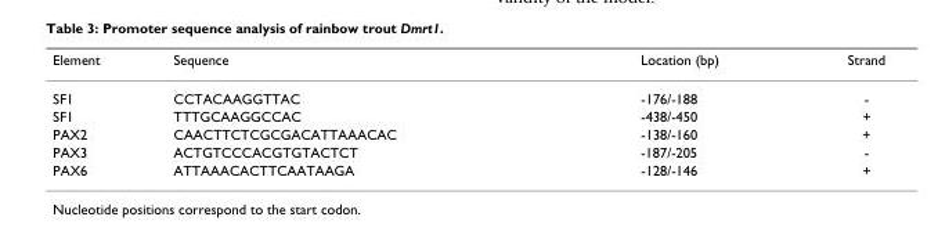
<table><thead><tr><td>Element</td><td>Sequence</td><td>Location (bp)</td><td>Strand</td></tr></thead><tbody><tr><td>SF1</td><td>CCTACAAGGTTAC</td><td>-176/-188</td><td>-</td></tr><tr><td>SF1</td><td>TTTGCAAGGCCAC</td><td>-438/-450</td><td>+</td></tr><tr><td>PAX2</td><td>CAACTTCTCGCGACATTAAACAC</td><td>-138/-160</td><td>+</td></tr><tr><td>PAX3</td><td>ACTGTCCCACGTGTACTCT</td><td>-187/-205</td><td>-</td></tr><tr><td>PAX6</td><td>ATTAAACACTTCAATAAGA</td><td>-128/-146</td><td>+</td></tr></tbody></table>